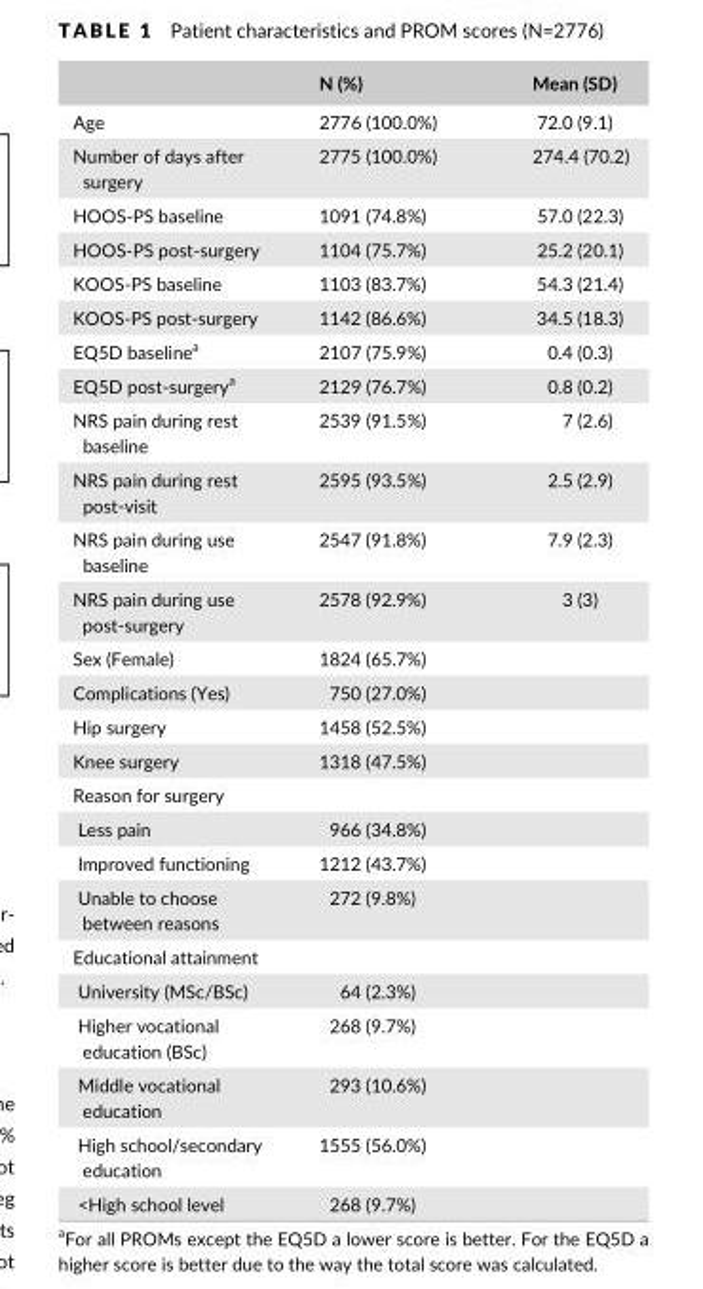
<table><thead><tr><td></td><td>N (%)</td><td>Mean (SD)</td></tr></thead><tbody><tr><td>Age</td><td>2776 (100.0%)</td><td>72.0 (9.1)</td></tr><tr><td>Number of days after surgery</td><td>2775 (100.0%)</td><td>274.4 (70.2)</td></tr><tr><td>HOOS- PS baseline</td><td>1091 (74.8%)</td><td>57.0 (22.3)</td></tr><tr><td>HOOS- PS post- surgery</td><td>1104 (75.7%)</td><td>25.2 (20.1)</td></tr><tr><td>KOOS- PS baseline</td><td>1103 (83.7%)</td><td>54.3 (21.4)</td></tr><tr><td>KOOS- PS post- surgery</td><td>1142 (86.6%)</td><td>34.5 (18.3)</td></tr><tr><td>EQ5D baseline<sup>a</sup></td><td>2107 (75.9%)</td><td>0.4 (0.3)</td></tr><tr><td>EQ5D post- surgery<sup>a</sup></td><td>2129 (76.7%)</td><td>0.8 (0.2)</td></tr><tr><td>NRS pain during rest baseline</td><td>2539 (91.5%)</td><td>7 (2.6)</td></tr><tr><td>NRS pain during rest post- visit</td><td>2595 (93.5%)</td><td>2.5 (2.9)</td></tr><tr><td>NRS pain during use baseline</td><td>2547 (91.8%)</td><td>7.9 (2.3)</td></tr><tr><td>NRS pain during use post- surgery</td><td>2578 (92.9%)</td><td>3 (3)</td></tr><tr><td>Sex (Female)</td><td>1824 (65.7%)</td><td></td></tr><tr><td>Complications (Yes)</td><td>750 (27.0%)</td><td></td></tr><tr><td>Hip surgery</td><td>1458 (52.5%)</td><td></td></tr><tr><td>Knee surgery</td><td>1318 (47.5%)</td><td></td></tr><tr><td colspan="3">Reason for surgery</td></tr><tr><td>Less pain</td><td>966 (34.8%)</td><td></td></tr><tr><td>Improved functioning</td><td>1212 (43.7%)</td><td></td></tr><tr><td>Unable to choose between reasons</td><td>272 (9.8%)</td><td></td></tr><tr><td colspan="3">Educational attainment</td></tr><tr><td>University (MSc/BSc)</td><td>64 (2.3%)</td><td></td></tr><tr><td>Higher vocational education (BSc)</td><td>268 (9.7%)</td><td></td></tr><tr><td>Middle vocational education</td><td>293 (10.6%)</td><td></td></tr><tr><td>High school/secondary education</td><td>1555 (56.0%)</td><td></td></tr><tr><td>&lt;High school level</td><td>268 (9.7%)</td><td></td></tr></tbody></table>